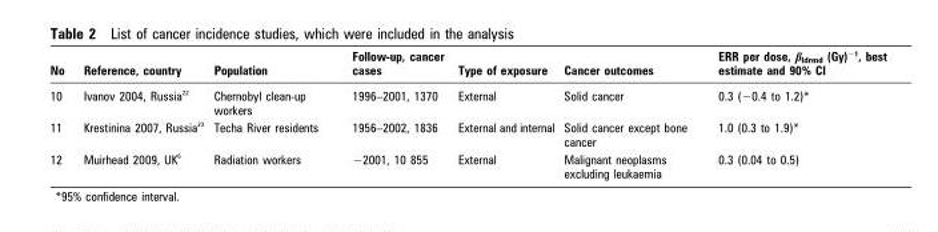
<table><thead><tr><td>No</td><td>Reference, country</td><td>Population</td><td>Follow-up, cancer cases</td><td>Type of exposure</td><td>Cancer outcomes</td><td>ERR per dose, β<sub>ldrmd</sub> (Gy)<sup>−1</sup>, best estimate and 90% CI</td></tr></thead><tbody><tr><td>10</td><td>Ivanov 2004, Russia <sup>22</sup></td><td>Chernobyl clean-up workers</td><td>1996–2001, 1370</td><td>External</td><td>Solid cancer</td><td>0.3 (−0.4 to 1.2)*</td></tr><tr><td>11</td><td>Krestinina 2007, Russia <sup>23</sup></td><td>Techa River residents</td><td>1956–2002, 1836</td><td>External and internal</td><td>Solid cancer except bone cancer</td><td>1.0 (0.3 to 1.9)*</td></tr><tr><td>12</td><td>Muirhead 2009, UK <sup>6</sup></td><td>Radiation workers</td><td>−2001, 10 855</td><td>External</td><td>Malignant neoplasms excluding leukaemia</td><td>0.3 (0.04 to 0.5)</td></tr></tbody></table>